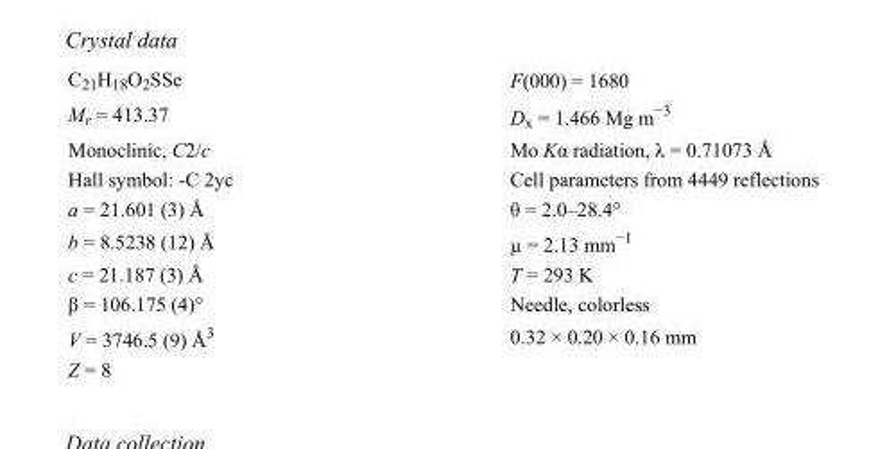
<table><tbody><tr><td>C<sub>21</sub>H<sub>18</sub>O<sub>2</sub>SSe</td><td>F(000) = 1680</td></tr><tr><td>M<sub>r</sub> = 413.37</td><td>D<sub>x</sub> = 1.466 Mg m<sup>−3</sup></td></tr><tr><td>Monoclinic, C2/c</td><td>Mo Kα radiation, λ = 0.71073 Å</td></tr><tr><td>Hall symbol: -C 2yc</td><td>Cell parameters from 4449 reflections</td></tr><tr><td>a = 21.601 (3) Å</td><td>θ = 2.0–28.4°</td></tr><tr><td>b = 8.5238 (12) Å</td><td>µ = 2.13 mm<sup>−1</sup></td></tr><tr><td>c = 21.187 (3) Å</td><td>T = 293 K</td></tr><tr><td>β = 106.175 (4)°</td><td>Needle, colorless</td></tr><tr><td>V = 3746.5 (9) Å<sup>3</sup></td><td>0.32 × 0.20 × 0.16 mm</td></tr><tr><td>Z = 8</td><td></td></tr></tbody></table>